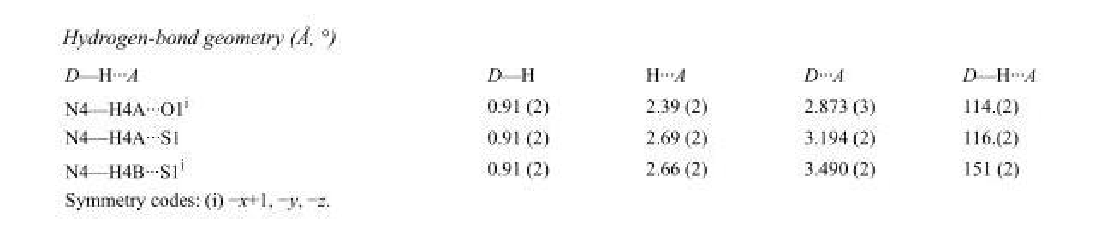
<table><tbody><tr><td>D—H···A</td><td>D—H</td><td>H···A</td><td>D···A</td><td>D—H···A</td></tr><tr><td>N4—H4A···O1<sup>i</sup></td><td>0.91 (2)</td><td>2.39 (2)</td><td>2.873 (3)</td><td>114.(2)</td></tr><tr><td>N4—H4A···S1</td><td>0.91 (2)</td><td>2.69 (2)</td><td>3.194 (2)</td><td>116.(2)</td></tr><tr><td>N4—H4B···S1<sup>i</sup></td><td>0.91 (2)</td><td>2.66 (2)</td><td>3.490 (2)</td><td>151 (2)</td></tr></tbody></table>